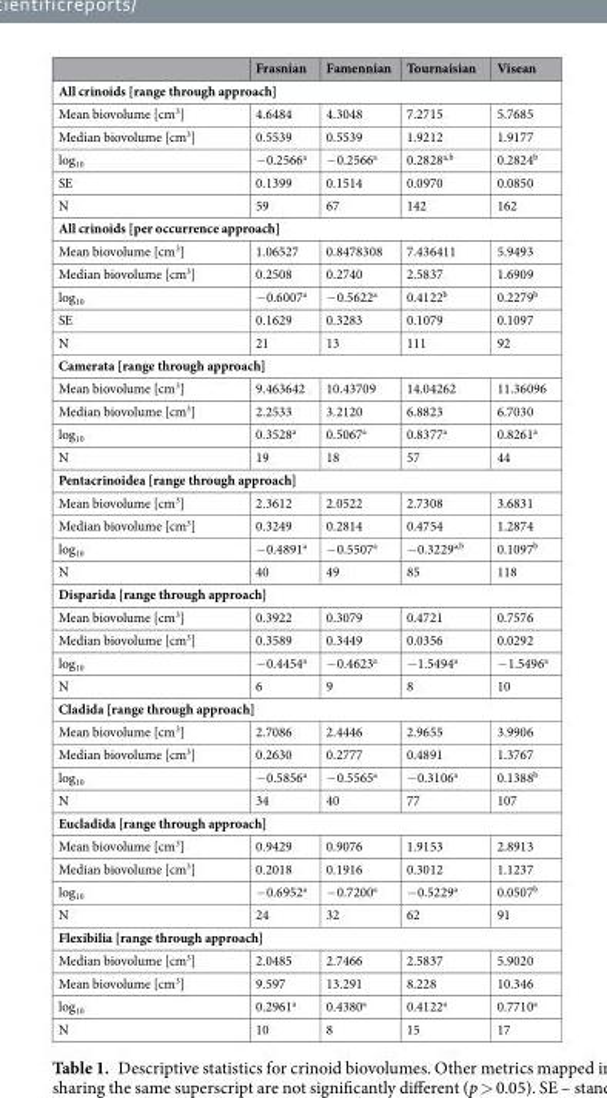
<table><thead><tr><td></td><td>Frasnian</td><td>Famennian</td><td>Tournaisian</td><td>Visean</td></tr></thead><tbody><tr><td colspan="5">All crinoids [range through approach]</td></tr><tr><td>Mean biovolume [cm<sup>3</sup>]</td><td>4.6484</td><td>4.3048</td><td>7.2715</td><td>5.7685</td></tr><tr><td>Median biovolume [cm<sup>3</sup>]</td><td>0.5539</td><td>0.5539</td><td>1.9212</td><td>1.9177</td></tr><tr><td>log<sub>10</sub></td><td>−0.2566<sup>a</sup></td><td>−0.2566<sup>a</sup></td><td>0.2828<sup>a,b</sup></td><td>0.2824<sup>b</sup></td></tr><tr><td>SE</td><td>0.1399</td><td>0.1514</td><td>0.0970</td><td>0.0850</td></tr><tr><td>N</td><td>59</td><td>67</td><td>142</td><td>162</td></tr><tr><td colspan="5">All crinoids [per occurrence approach]</td></tr><tr><td>Mean biovolume [cm<sup>3</sup>]</td><td>1.06527</td><td>0.8478308</td><td>7.436411</td><td>5.9493</td></tr><tr><td>Median biovolume [cm<sup>3</sup>]</td><td>0.2508</td><td>0.2740</td><td>2.5837</td><td>1.6909</td></tr><tr><td>log<sub>10</sub></td><td>−0.6007<sup>a</sup></td><td>−0.5622<sup>a</sup></td><td>0.4122<sup>b</sup></td><td>0.2279<sup>b</sup></td></tr><tr><td>SE</td><td>0.1629</td><td>0.3283</td><td>0.1079</td><td>0.1097</td></tr><tr><td>N</td><td>21</td><td>13</td><td>111</td><td>92</td></tr><tr><td colspan="5">Camerata [range through approach]</td></tr><tr><td>Mean biovolume [cm<sup>3</sup>]</td><td>9.463642</td><td>10.43709</td><td>14.04262</td><td>11.36096</td></tr><tr><td>Median biovolume [cm<sup>3</sup>]</td><td>2.2533</td><td>3.2120</td><td>6.8823</td><td>6.7030</td></tr><tr><td>log<sub>10</sub></td><td>0.3528<sup>a</sup></td><td>0.5067<sup>a</sup></td><td>0.8377<sup>a</sup></td><td>0.8261<sup>a</sup></td></tr><tr><td>N</td><td>19</td><td>18</td><td>57</td><td>44</td></tr><tr><td colspan="5">Pentacrinoidea [range through approach]</td></tr><tr><td>Mean biovolume [cm<sup>3</sup>]</td><td>2.3612</td><td>2.0522</td><td>2.7308</td><td>3.6831</td></tr><tr><td>Median biovolume [cm<sup>3</sup>]</td><td>0.3249</td><td>0.2814</td><td>0.4754</td><td>1.2874</td></tr><tr><td>log<sub>10</sub></td><td>−0.4891<sup>a</sup></td><td>−0.5507<sup>a</sup></td><td>−0.3229<sup>a,b</sup></td><td>0.1097<sup>b</sup></td></tr><tr><td>N</td><td>40</td><td>49</td><td>85</td><td>118</td></tr><tr><td colspan="5">Disparida [range through approach]</td></tr><tr><td>Mean biovolume [cm<sup>3</sup>]</td><td>0.3922</td><td>0.3079</td><td>0.4721</td><td>0.7576</td></tr><tr><td>Median biovolume [cm<sup>3</sup>]</td><td>0.3589</td><td>0.3449</td><td>0.0356</td><td>0.0292</td></tr><tr><td>log<sub>10</sub></td><td>−0.4454<sup>a</sup></td><td>−0.4623<sup>a</sup></td><td>−1.5494<sup>a</sup></td><td>−1.5496<sup>a</sup></td></tr><tr><td>N</td><td>6</td><td>9</td><td>8</td><td>10</td></tr><tr><td colspan="5">Cladida [range through approach]</td></tr><tr><td>Mean biovolume [cm<sup>3</sup>]</td><td>2.7086</td><td>2.4446</td><td>2.9655</td><td>3.9906</td></tr><tr><td>Median biovolume [cm<sup>3</sup>]</td><td>0.2630</td><td>0.2777</td><td>0.4891</td><td>1.3767</td></tr><tr><td>log<sub>10</sub></td><td>−0.5856<sup>a</sup></td><td>−0.5565<sup>a</sup></td><td>−0.3106<sup>a</sup></td><td>0.1388<sup>b</sup></td></tr><tr><td>N</td><td>34</td><td>40</td><td>77</td><td>107</td></tr><tr><td colspan="5">Eucladida [range through approach]</td></tr><tr><td>Mean biovolume [cm<sup>3</sup>]</td><td>0.9429</td><td>0.9076</td><td>1.9153</td><td>2.8913</td></tr><tr><td>Median biovolume [cm<sup>3</sup>]</td><td>0.2018</td><td>0.1916</td><td>0.3012</td><td>1.1237</td></tr><tr><td>log<sub>10</sub></td><td>−0.6952<sup>a</sup></td><td>−0.7200<sup>a</sup></td><td>−0.5229<sup>a</sup></td><td>0.0507<sup>b</sup></td></tr><tr><td>N</td><td>24</td><td>32</td><td>62</td><td>91</td></tr><tr><td colspan="5">Flexibilia [range through approach]</td></tr><tr><td>Median biovolume [cm<sup>3</sup>]</td><td>2.0485</td><td>2.7466</td><td>2.5837</td><td>5.9020</td></tr><tr><td>Mean biovolume [cm<sup>3</sup>]</td><td>9.597</td><td>13.291</td><td>8.228</td><td>10.346</td></tr><tr><td>log<sub>10</sub></td><td>0.2961<sup>a</sup></td><td>0.4380<sup>a</sup></td><td>0.4122<sup>a</sup></td><td>0.7710<sup>a</sup></td></tr><tr><td>N</td><td>10</td><td>8</td><td>15</td><td>17</td></tr></tbody></table>